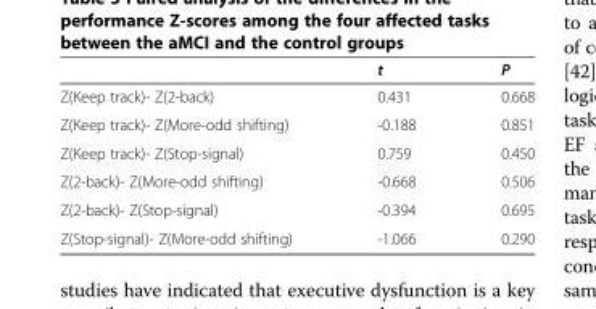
<table><thead><tr><td></td><td>t</td><td>P</td></tr></thead><tbody><tr><td>Z(Keep track)- Z(2-back)</td><td>0.431</td><td>0.668</td></tr><tr><td>Z(Keep track)- Z(More-odd shifting)</td><td>-0.188</td><td>0.851</td></tr><tr><td>Z(Keep track)- Z(Stop-signal)</td><td>0.759</td><td>0.450</td></tr><tr><td>Z(2-back)- Z(More-odd shifting)</td><td>-0.668</td><td>0.506</td></tr><tr><td>Z(2-back)- Z(Stop-signal)</td><td>-0.394</td><td>0.695</td></tr><tr><td>Z(Stop-signal)- Z(More-odd shifting)</td><td>-1.066</td><td>0.290</td></tr></tbody></table>